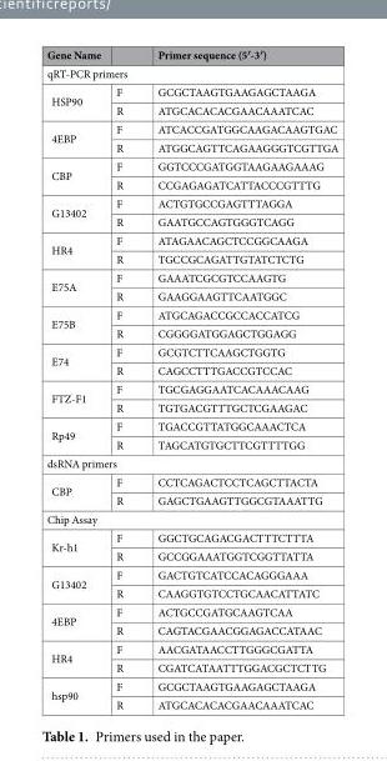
<table><thead><tr><td>Gene Name</td><td></td><td>Primer sequence (5′-3′)</td></tr></thead><tbody><tr><td colspan="3">qRT-PCR primers</td></tr><tr><td rowspan="2">HSP90</td><td>F</td><td>GCGCTAAGTGAAGAGCTAAGA</td></tr><tr><td>R</td><td>ATGCACACACGAACAAATCAC</td></tr><tr><td rowspan="2">4EBP</td><td>F</td><td>ATCACCGATGGCAAGACAAGTGAC</td></tr><tr><td>R</td><td>ATGGCAGTTCAGAAGGGTCGTTGA</td></tr><tr><td rowspan="2">CBP</td><td>F</td><td>GGTCCCGATGGTAAGAAGAAAG</td></tr><tr><td>R</td><td>CCGAGAGATCATTACCCGTTTG</td></tr><tr><td rowspan="2">G13402</td><td>F</td><td>ACTGTGCCGAGTTTAGGA</td></tr><tr><td>R</td><td>GAATGCCAGTGGGTCAGG</td></tr><tr><td rowspan="2">HR4</td><td>F</td><td>ATAGAACAGCTCCGGCAAGA</td></tr><tr><td>R</td><td>TGCCGCAGATTGTATCTCTG</td></tr><tr><td rowspan="2">E75A</td><td>F</td><td>GAAATCGCGTCCAAGTG</td></tr><tr><td>R</td><td>GAAGGAAGTTCAATGGC</td></tr><tr><td rowspan="2">E75B</td><td>F</td><td>ATGCAGACCGCCACCATCG</td></tr><tr><td>R</td><td>CGGGGATGGAGCTGGAGG</td></tr><tr><td rowspan="2">E74</td><td>F</td><td>GCGTCTTCAAGCTGGTG</td></tr><tr><td>R</td><td>CAGCCTTTGACCGTCCAC</td></tr><tr><td rowspan="2">FTZ-F1</td><td>F</td><td>TGCGAGGAATCACAAACAAG</td></tr><tr><td>R</td><td>TGTGACGTTTGCTCGAAGAC</td></tr><tr><td rowspan="2">Rp49</td><td>F</td><td>TGACCGTTATGGCAAACTCA</td></tr><tr><td>R</td><td>TAGCATGTGCTTCGTTTTGG</td></tr><tr><td colspan="3">dsRNA primers</td></tr><tr><td rowspan="2">CBP</td><td>F</td><td>CCTCAGACTCCTCAGCTTACTA</td></tr><tr><td>R</td><td>GAGCTGAAGTTGGCGTAAATTG</td></tr><tr><td colspan="3">Chip Assay</td></tr><tr><td rowspan="2">Kr-h1</td><td>F</td><td>GGCTGCAGACGACTTTCTTTA</td></tr><tr><td>R</td><td>GCCGGAAATGGTCGGTTATTA</td></tr><tr><td rowspan="2">G13402</td><td>F</td><td>GACTGTCATCCACAGGGAAA</td></tr><tr><td>R</td><td>CAAGGTGTCCTGCAACATTATC</td></tr><tr><td rowspan="2">4EBP</td><td>F</td><td>ACTGCCGATGCAAGTCAA</td></tr><tr><td>R</td><td>CAGTACGAACGGAGACCATAAC</td></tr><tr><td rowspan="2">HR4</td><td>F</td><td>AACGATAACCTTGGGCGATTA</td></tr><tr><td>R</td><td>CGATCATAATTTGGACGCTCTTG</td></tr><tr><td rowspan="2">hsp90</td><td>F</td><td>GCGCTAAGTGAAGAGCTAAGA</td></tr><tr><td>R</td><td>ATGCACACACGAACAAATCAC</td></tr></tbody></table>